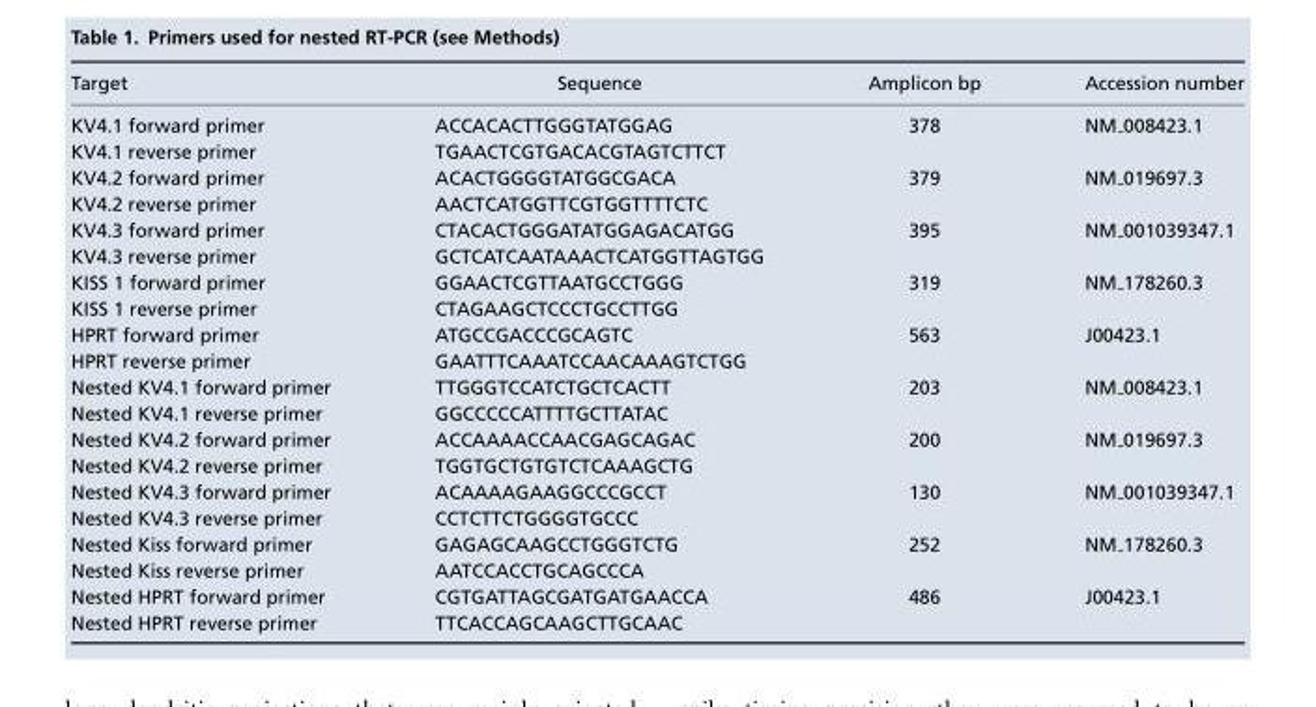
<table><thead><tr><td>Target</td><td>Sequence</td><td>Amplicon bp</td><td>Accession number</td></tr></thead><tbody><tr><td>KV4.1 forward primer</td><td>ACCACACTTGGGTATGGAG</td><td>378</td><td>NM 008423.1</td></tr><tr><td>KV4.1 reverse primer</td><td>TGAACTCGTGACACGTAGTCTTCT</td><td></td><td></td></tr><tr><td>KV4.2 forward primer</td><td>ACACTGGGGTATGGCGACA</td><td>379</td><td>NM 019697.3</td></tr><tr><td>KV4.2 reverse primer</td><td>AACTCATGGTTCGTGGTTTTCTC</td><td></td><td></td></tr><tr><td>KV4.3 forward primer</td><td>CTACACTGGGATATGGAGACATGG</td><td>395</td><td>NM 001039347.1</td></tr><tr><td>KV4.3 reverse primer</td><td>GCTCATCAATAAACTCATGGTTAGTGG</td><td></td><td></td></tr><tr><td>KISS 1 forward primer</td><td>GGAACTCGTTAATGCCTGGG</td><td>319</td><td>NM 178260.3</td></tr><tr><td>KISS 1 reverse primer</td><td>CTAGAAGCTCCCTGCCTTGG</td><td></td><td></td></tr><tr><td>HPRT forward primer</td><td>ATGCCGACCCGCAGTC</td><td>563</td><td>J00423.1</td></tr><tr><td>HPRT reverse primer</td><td>GAATTTCAAATCCAACAAAGTCTGG</td><td></td><td></td></tr><tr><td>Nested KV4.1 forward primer</td><td>TTGGGTCCATCTGCTCACTT</td><td>203</td><td>NM 008423.1</td></tr><tr><td>Nested KV4.1 reverse primer</td><td>GGCCCCCATTTTGCTTATAC</td><td></td><td></td></tr><tr><td>Nested KV4.2 forward primer</td><td>ACCAAAACCAACGAGCAGAC</td><td>200</td><td>NM 019697.3</td></tr><tr><td>Nested KV4.2 reverse primer</td><td>TGGTGCTGTGTCTCAAAGCTG</td><td></td><td></td></tr><tr><td>Nested KV4.3 forward primer</td><td>ACAAAAGAAGGCCCGCCT</td><td>130</td><td>NM 001039347.1</td></tr><tr><td>Nested KV4.3 reverse primer</td><td>CCTCTTCTGGGGTGCCC</td><td></td><td></td></tr><tr><td>Nested Kiss forward primer</td><td>GAGAGCAAGCCTGGGTCTG</td><td>252</td><td>NM 178260.3</td></tr><tr><td>Nested Kiss reverse primer</td><td>AATCCACCTGCAGCCCA</td><td></td><td></td></tr><tr><td>Nested HPRT forward primer</td><td>CGTGATTAGCGATGATGAACCA</td><td>486</td><td>J00423.1</td></tr><tr><td>Nested HPRT reverse primer</td><td>TTCACCAGCAAGCTTGCAAC</td><td></td><td></td></tr></tbody></table>